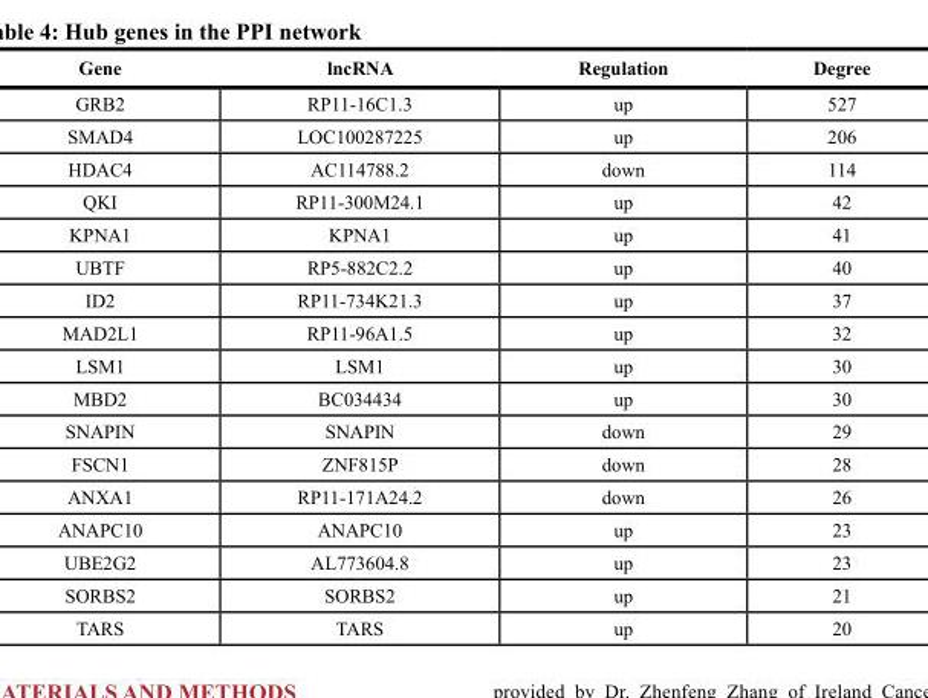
<table><thead><tr><td>Gene</td><td>lncRNA</td><td>Regulation</td><td>Degree</td></tr></thead><tbody><tr><td>GRB2</td><td>RP11-16C1.3</td><td>up</td><td>527</td></tr><tr><td>SMAD4</td><td>LOC100287225</td><td>up</td><td>206</td></tr><tr><td>HDAC4</td><td>AC114788.2</td><td>down</td><td>114</td></tr><tr><td>QKI</td><td>RP11-300M24.1</td><td>up</td><td>42</td></tr><tr><td>KPNA1</td><td>KPNA1</td><td>up</td><td>41</td></tr><tr><td>UBTF</td><td>RP5-882C2.2</td><td>up</td><td>40</td></tr><tr><td>ID2</td><td>RP11-734K21.3</td><td>up</td><td>37</td></tr><tr><td>MAD2L1</td><td>RP11-96A1.5</td><td>up</td><td>32</td></tr><tr><td>LSM1</td><td>LSM1</td><td>up</td><td>30</td></tr><tr><td>MBD2</td><td>BC034434</td><td>up</td><td>30</td></tr><tr><td>SNAPIN</td><td>SNAPIN</td><td>down</td><td>29</td></tr><tr><td>FSCN1</td><td>ZNF815P</td><td>down</td><td>28</td></tr><tr><td>ANXA1</td><td>RP11-171A24.2</td><td>down</td><td>26</td></tr><tr><td>ANAPC10</td><td>ANAPC10</td><td>up</td><td>23</td></tr><tr><td>UBE2G2</td><td>AL773604.8</td><td>up</td><td>23</td></tr><tr><td>SORBS2</td><td>SORBS2</td><td>up</td><td>21</td></tr><tr><td>TARS</td><td>TARS</td><td>up</td><td>20</td></tr></tbody></table>